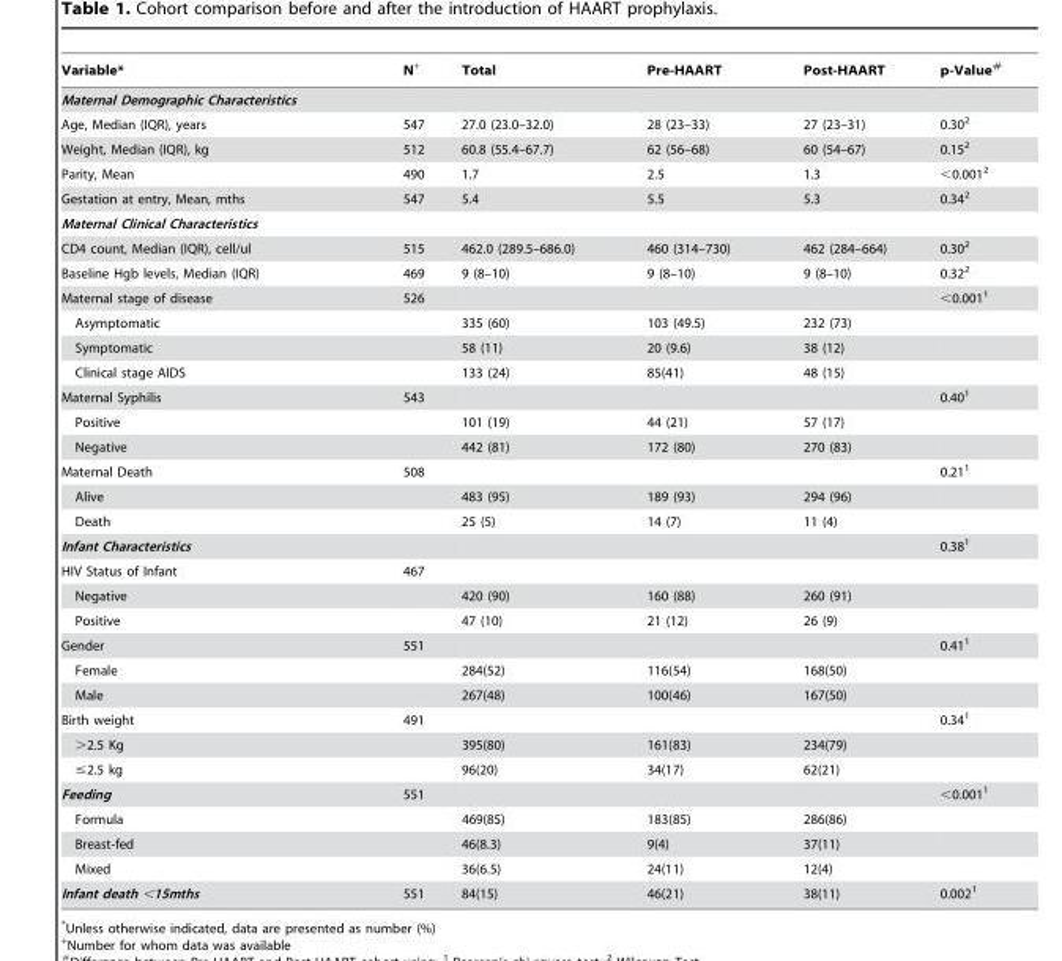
<table><thead><tr><td>Variable*</td><td>N+</td><td>Total</td><td>Pre-HAART</td><td>Post-HAART</td><td>p-Value#</td></tr></thead><tbody><tr><td colspan="6">Maternal Demographic Characteristics</td></tr><tr><td>Age, Median (IQR), years</td><td>547</td><td>27.0 (23.0–32.0)</td><td>28 (23–33)</td><td>27 (23–31)</td><td>0.30<sup>2</sup></td></tr><tr><td>Weight, Median (IQR), kg</td><td>512</td><td>60.8 (55.4–67.7)</td><td>62 (56–68)</td><td>60 (54–67)</td><td>0.15<sup>2</sup></td></tr><tr><td>Parity, Mean</td><td>490</td><td>1.7</td><td>2.5</td><td>1.3</td><td>&lt;0.001<sup>2</sup></td></tr><tr><td>Gestation at entry, Mean, mths</td><td>547</td><td>5.4</td><td>5.5</td><td>5.3</td><td>0.34<sup>2</sup></td></tr><tr><td colspan="6">Maternal Clinical Characteristics</td></tr><tr><td>CD4 count, Median (IQR), cell/ul</td><td>515</td><td>462.0 (289.5–686.0)</td><td>460 (314–730)</td><td>462 (284–664)</td><td>0.30<sup>2</sup></td></tr><tr><td>Baseline Hgb levels, Median (IQR)</td><td>469</td><td>9 (8–10)</td><td>9 (8–10)</td><td>9 (8–10)</td><td>0.32<sup>2</sup></td></tr><tr><td>Maternal stage of disease</td><td>526</td><td></td><td></td><td></td><td>&lt;0.001<sup>1</sup></td></tr><tr><td>Asymptomatic</td><td></td><td>335 (60)</td><td>103 (49.5)</td><td>232 (73)</td><td></td></tr><tr><td>Symptomatic</td><td></td><td>58 (11)</td><td>20 (9.6)</td><td>38 (12)</td><td></td></tr><tr><td>Clinical stage AIDS</td><td></td><td>133 (24)</td><td>85(41)</td><td>48 (15)</td><td></td></tr><tr><td>Maternal Syphilis</td><td>543</td><td></td><td></td><td></td><td>0.40<sup>1</sup></td></tr><tr><td>Positive</td><td></td><td>101 (19)</td><td>44 (21)</td><td>57 (17)</td><td></td></tr><tr><td>Negative</td><td></td><td>442 (81)</td><td>172 (80)</td><td>270 (83)</td><td></td></tr><tr><td>Maternal Death</td><td>508</td><td></td><td></td><td></td><td>0.21<sup>1</sup></td></tr><tr><td>Alive</td><td></td><td>483 (95)</td><td>189 (93)</td><td>294 (96)</td><td></td></tr><tr><td>Death</td><td></td><td>25 (5)</td><td>14 (7)</td><td>11 (4)</td><td></td></tr><tr><td>Infant Characteristics</td><td></td><td></td><td></td><td></td><td>0.38<sup>1</sup></td></tr><tr><td>HIV Status of Infant</td><td>467</td><td></td><td></td><td></td><td></td></tr><tr><td>Negative</td><td></td><td>420 (90)</td><td>160 (88)</td><td>260 (91)</td><td></td></tr><tr><td>Positive</td><td></td><td>47 (10)</td><td>21 (12)</td><td>26 (9)</td><td></td></tr><tr><td>Gender</td><td>551</td><td></td><td></td><td></td><td>0.41<sup>1</sup></td></tr><tr><td>Female</td><td></td><td>284(52)</td><td>116(54)</td><td>168(50)</td><td></td></tr><tr><td>Male</td><td></td><td>267(48)</td><td>100(46)</td><td>167(50)</td><td></td></tr><tr><td>Birth weight</td><td>491</td><td></td><td></td><td></td><td>0.34<sup>1</sup></td></tr><tr><td>&gt;2.5 Kg</td><td></td><td>395(80)</td><td>161(83)</td><td>234(79)</td><td></td></tr><tr><td>≤2.5 kg</td><td></td><td>96(20)</td><td>34(17)</td><td>62(21)</td><td></td></tr><tr><td>Feeding</td><td>551</td><td></td><td></td><td></td><td>&lt;0.001<sup>1</sup></td></tr><tr><td>Formula</td><td></td><td>469(85)</td><td>183(85)</td><td>286(86)</td><td></td></tr><tr><td>Breast-fed</td><td></td><td>46(8.3)</td><td>9(4)</td><td>37(11)</td><td></td></tr><tr><td>Mixed</td><td></td><td>36(6.5)</td><td>24(11)</td><td>12(4)</td><td></td></tr><tr><td>Infant death &lt;15mths</td><td>551</td><td>84(15)</td><td>46(21)</td><td>38(11)</td><td>0.002<sup>1</sup></td></tr></tbody></table>